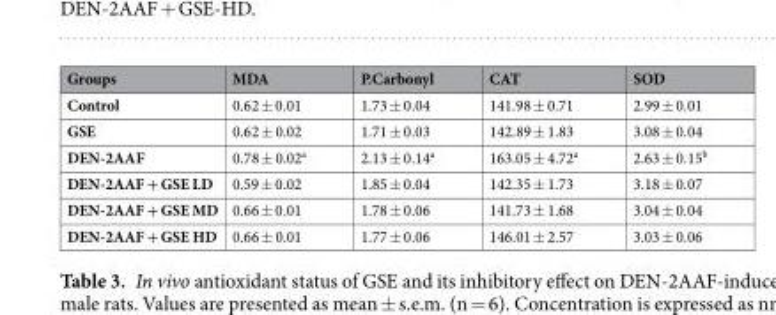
<table><thead><tr><td>Groups</td><td>MDA</td><td>P.Carbonyl</td><td>CAT</td><td>SOD</td></tr></thead><tbody><tr><td>Control</td><td>0.62 ± 0.01</td><td>1.73 ± 0.04</td><td>141.98 ± 0.71</td><td>2.99 ± 0.01</td></tr><tr><td>GSE</td><td>0.62 ± 0.02</td><td>1.71 ± 0.03</td><td>142.89 ± 1.83</td><td>3.08 ± 0.04</td></tr><tr><td>DEN-2AAF</td><td>0.78 ± 0.02<sup>a</sup></td><td>2.13 ± 0.14<sup>a</sup></td><td>163.05 ± 4.72<sup>a</sup></td><td>2.63 ± 0.15<sup>b</sup></td></tr><tr><td>DEN-2AAF + GSE LD</td><td>0.59 ± 0.02</td><td>1.85 ± 0.04</td><td>142.35 ± 1.73</td><td>3.18 ± 0.07</td></tr><tr><td>DEN-2AAF + GSE MD</td><td>0.66 ± 0.01</td><td>1.78 ± 0.06</td><td>141.73 ± 1.68</td><td>3.04 ± 0.04</td></tr><tr><td>DEN-2AAF + GSE HD</td><td>0.66 ± 0.01</td><td>1.77 ± 0.06</td><td>146.01 ± 2.57</td><td>3.03 ± 0.06</td></tr></tbody></table>